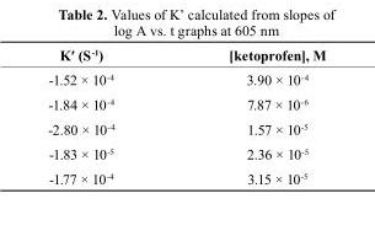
<table><thead><tr><td>K′ (S<sup>-1</sup>)</td><td>[ketoprofen], M</td></tr></thead><tbody><tr><td>-1.52 × 10<sup>-4</sup></td><td>3.90 × 10<sup>-4</sup></td></tr><tr><td>-1.84 × 10<sup>-4</sup></td><td>7.87 × 10<sup>-6</sup></td></tr><tr><td>-2.80 × 10<sup>-4</sup></td><td>1.57 × 10<sup>-5</sup></td></tr><tr><td>-1.83 × 10<sup>-5</sup></td><td>2.36 × 10<sup>-5</sup></td></tr><tr><td>-1.77 × 10<sup>-4</sup></td><td>3.15 × 10<sup>-5</sup></td></tr></tbody></table>